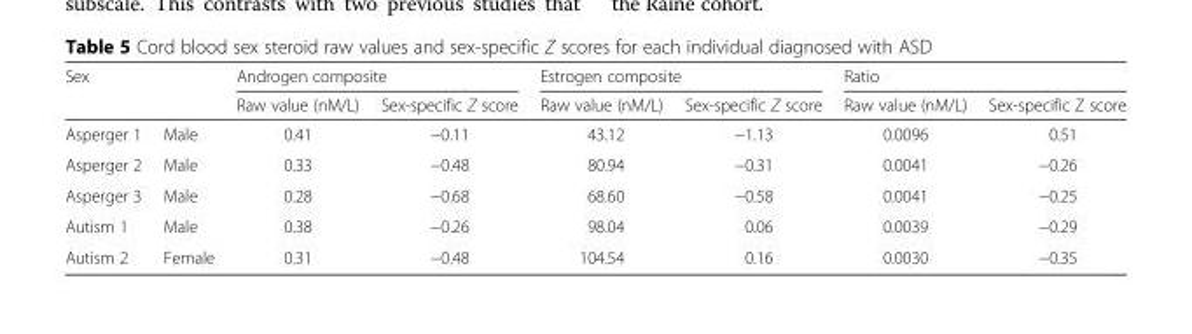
<table><thead><tr><td rowspan="2" colspan="2">Sex</td><td colspan="2">Androgen composite</td><td colspan="2">Estrogen composite</td><td colspan="2">Ratio</td></tr><tr><td rowspan="2">Raw value (nM/L) 0.41</td><td rowspan="2">Sex-specific Z score −0.11</td><td rowspan="2">Raw value (nM/L) 43.12</td><td rowspan="2">Sex-specific Z score −1.13</td><td rowspan="2">Raw value (nM/L) 0.0096</td><td rowspan="2">Sex-specific Z score 0.51</td></tr><tr><td>Asperger 1</td><td>Male</td></tr></thead><tbody><tr><td>Asperger 2</td><td>Male</td><td>0.33</td><td>−0.48</td><td>80.94</td><td>−0.31</td><td>0.0041</td><td>−0.26</td></tr><tr><td>Asperger 3</td><td>Male</td><td>0.28</td><td>−0.68</td><td>68.60</td><td>−0.58</td><td>0.0041</td><td>−0.25</td></tr><tr><td>Autism 1</td><td>Male</td><td>0.38</td><td>−0.26</td><td>98.04</td><td>0.06</td><td>0.0039</td><td>−0.29</td></tr><tr><td>Autism 2</td><td>Female</td><td>0.31</td><td>−0.48</td><td>104.54</td><td>0.16</td><td>0.0030</td><td>−0.35</td></tr></tbody></table>